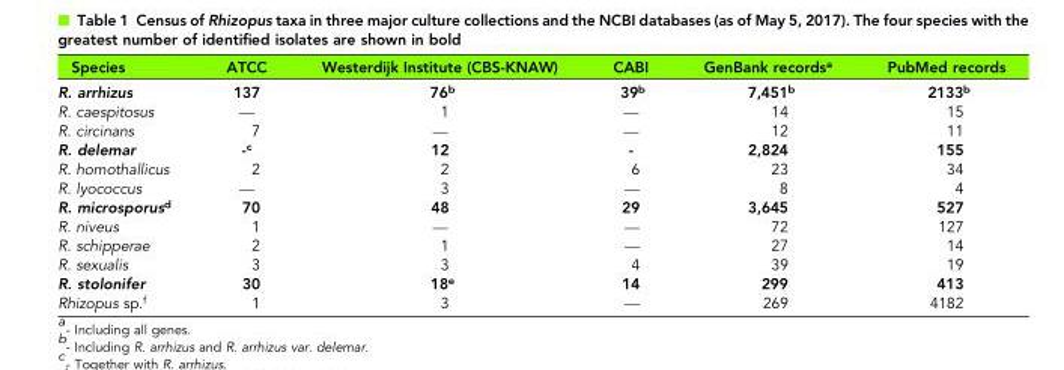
<table><thead><tr><td>Species</td><td>ATCC</td><td>Westerdijk Institute (CBS-KNAW)</td><td>CABI</td><td>GenBank records<sup>a</sup></td><td>PubMed records</td></tr></thead><tbody><tr><td>R. arrhizus</td><td>137</td><td>76<sup>b</sup></td><td>39<sup>b</sup></td><td>7,451<sup>b</sup></td><td>2133<sup>b</sup></td></tr><tr><td>R. caespitosus</td><td>—</td><td>1</td><td>—</td><td>14</td><td>15</td></tr><tr><td>R. circinans</td><td>7</td><td>—</td><td>—</td><td>12</td><td>11</td></tr><tr><td>R. delemar</td><td>-<sup>c</sup></td><td>12</td><td>-</td><td>2,824</td><td>155</td></tr><tr><td>R. homothallicus</td><td>2</td><td>2</td><td>6</td><td>23</td><td>34</td></tr><tr><td>R. lyococcus</td><td>—</td><td>3</td><td>—</td><td>8</td><td>4</td></tr><tr><td>R. microsporus<sup>d</sup></td><td>70</td><td>48</td><td>29</td><td>3,645</td><td>527</td></tr><tr><td>R. niveus</td><td>1</td><td>—</td><td>—</td><td>72</td><td>127</td></tr><tr><td>R. schipperae</td><td>2</td><td>1</td><td>—</td><td>27</td><td>14</td></tr><tr><td>R. sexualis</td><td>3</td><td>3</td><td>4</td><td>39</td><td>19</td></tr><tr><td>R. stolonifer</td><td>30</td><td>18<sup>e</sup></td><td>14</td><td>299</td><td>413</td></tr><tr><td>Rhizopus sp.<sup>f</sup></td><td>1</td><td>3</td><td>—</td><td>269</td><td>4182</td></tr></tbody></table>